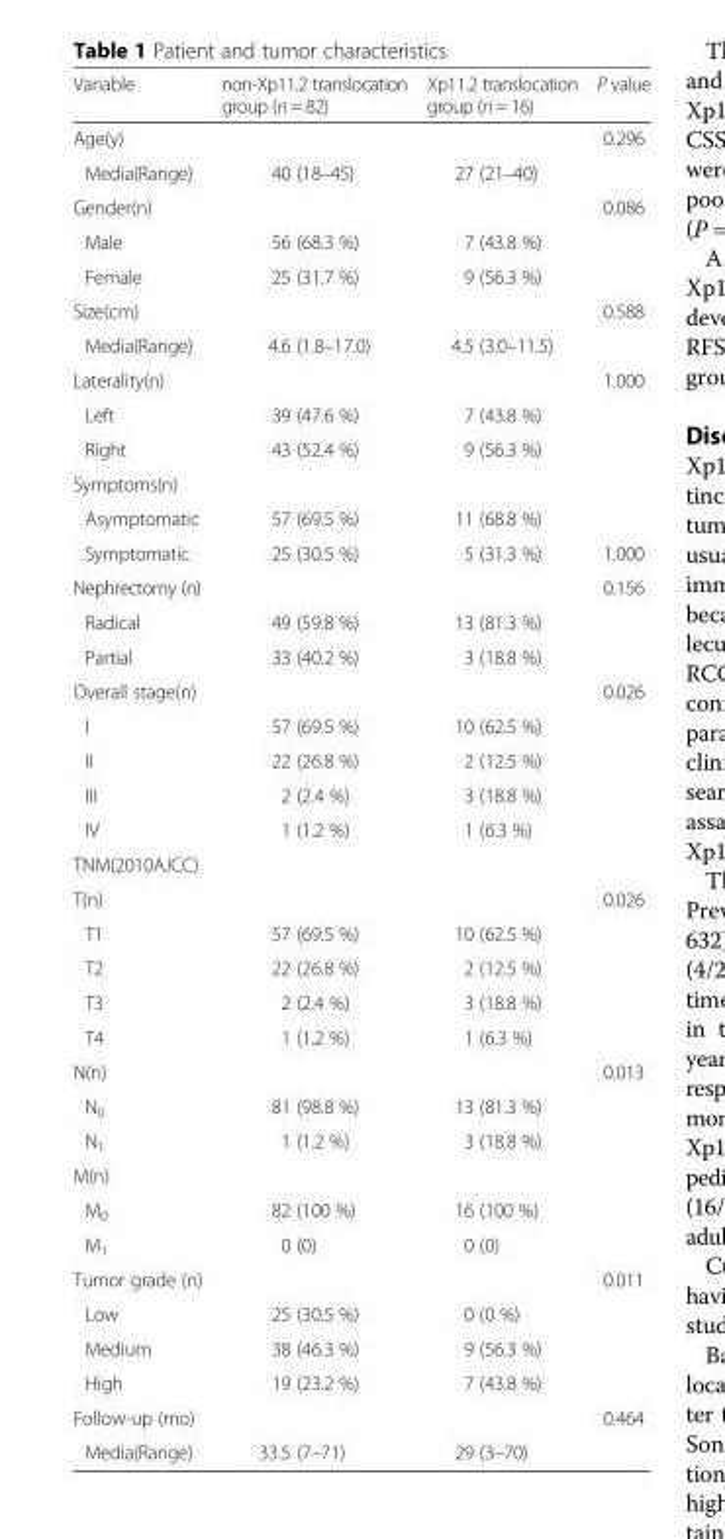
<table><thead><tr><td>Variable</td><td>non-Xp11.2 translocation group (n = 82)</td><td>Xp11.2 translocation group (n = 16)</td><td>P value</td></tr></thead><tbody><tr><td>Age(y)</td><td></td><td></td><td>0.296</td></tr><tr><td>Media(Range)</td><td>40 (18–45)</td><td>27 (21–40)</td><td></td></tr><tr><td>Gender(n)</td><td></td><td></td><td>0.086</td></tr><tr><td>Male</td><td>56 (68.3 %)</td><td>7 (43.8 %)</td><td></td></tr><tr><td>Female</td><td>25 (31.7 %)</td><td>9 (56.3 %)</td><td></td></tr><tr><td>Size(cm)</td><td></td><td></td><td>0.588</td></tr><tr><td>Media(Range)</td><td>4.6 (1.8–17.0)</td><td>4.5 (3.0–11.5)</td><td></td></tr><tr><td>Laterality(n)</td><td></td><td></td><td>1.000</td></tr><tr><td>Left</td><td>39 (47.6 %)</td><td>7 (43.8 %)</td><td></td></tr><tr><td>Right</td><td>43 (52.4 %)</td><td>9 (56.3 %)</td><td></td></tr><tr><td colspan="4">Symptoms(n)</td></tr><tr><td>Asymptomatic</td><td>57 (69.5 %)</td><td>11 (68.8 %)</td><td></td></tr><tr><td>Symptomatic</td><td>25 (30.5 %)</td><td>5 (31.3 %)</td><td>1.000</td></tr><tr><td>Nephrectomy (n)</td><td></td><td></td><td>0.156</td></tr><tr><td>Radical</td><td>49 (59.8 %)</td><td>13 (81.3 %)</td><td></td></tr><tr><td>Partial</td><td>33 (40.2 %)</td><td>3 (18.8 %)</td><td></td></tr><tr><td>Overall stage(n)</td><td></td><td></td><td>0.026</td></tr><tr><td>I</td><td>57 (69.5 %)</td><td>10 (62.5 %)</td><td></td></tr><tr><td>II</td><td>22 (26.8 %)</td><td>2 (12.5 %)</td><td></td></tr><tr><td>III</td><td>2 (2.4 %)</td><td>3 (18.8 %)</td><td></td></tr><tr><td>IV</td><td>1 (1.2 %)</td><td>1 (6.3 %)</td><td></td></tr><tr><td colspan="4">TNM(2010AJCC)</td></tr><tr><td>T(n)</td><td></td><td></td><td>0.026</td></tr><tr><td>T1</td><td>57 (69.5 %)</td><td>10 (62.5 %)</td><td></td></tr><tr><td>T2</td><td>22 (26.8 %)</td><td>2 (12.5 %)</td><td></td></tr><tr><td>T3</td><td>2 (2.4 %)</td><td>3 (18.8 %)</td><td></td></tr><tr><td>T4</td><td>1 (1.2 %)</td><td>1 (6.3 %)</td><td></td></tr><tr><td>N(n)</td><td></td><td></td><td>0.013</td></tr><tr><td>N<sub>0</sub></td><td>81 (98.8 %)</td><td>13 (81.3 %)</td><td></td></tr><tr><td>N<sub>1</sub></td><td>1 (1.2 %)</td><td>3 (18.8 %)</td><td></td></tr><tr><td colspan="4">M(n)</td></tr><tr><td>M<sub>0</sub></td><td>82 (100 %)</td><td>16 (100 %)</td><td></td></tr><tr><td>M<sub>1</sub></td><td>0 (0)</td><td>0 (0)</td><td></td></tr><tr><td>Tumor grade (n)</td><td></td><td></td><td>0.011</td></tr><tr><td>Low</td><td>25 (30.5 %)</td><td>0 (0 %)</td><td></td></tr><tr><td>Medium</td><td>38 (46.3 %)</td><td>9 (56.3 %)</td><td></td></tr><tr><td>High</td><td>19 (23.2 %)</td><td>7 (43.8 %)</td><td></td></tr><tr><td>Follow-up (mo)</td><td></td><td></td><td>0.464</td></tr><tr><td>Media(Range)</td><td>33.5 (7–71)</td><td>29 (3–70)</td><td></td></tr></tbody></table>